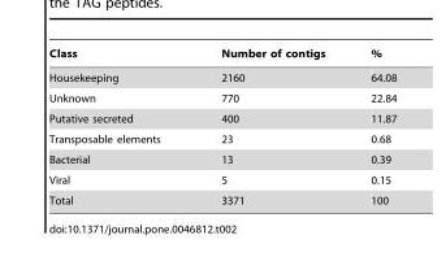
<table><thead><tr><td>Class</td><td>Number of contigs</td><td>%</td></tr></thead><tbody><tr><td>Housekeeping</td><td>2160</td><td>64.08</td></tr><tr><td>Unknown</td><td>770</td><td>22.84</td></tr><tr><td>Putative secreted</td><td>400</td><td>11.87</td></tr><tr><td>Transposable elements</td><td>23</td><td>0.68</td></tr><tr><td>Bacterial</td><td>13</td><td>0.39</td></tr><tr><td>Viral</td><td>5</td><td>0.15</td></tr><tr><td>Total</td><td>3371</td><td>100</td></tr></tbody></table>